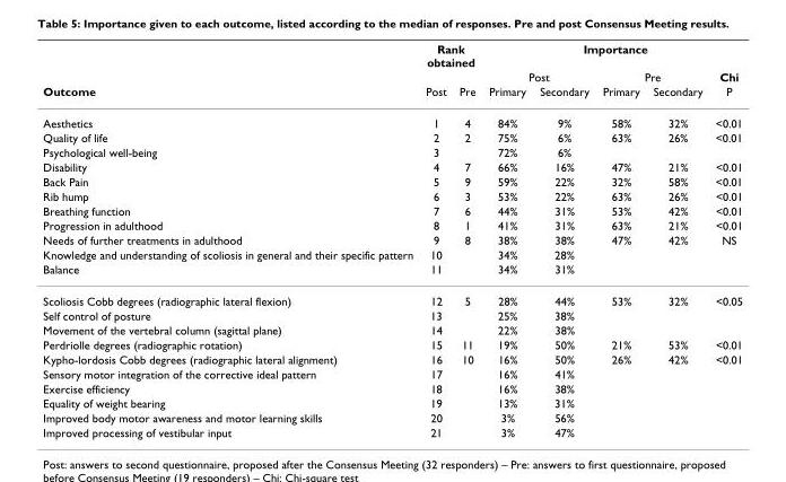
<table><thead><tr><td rowspan="3">Outcome</td><td colspan="2">Rank obtained</td><td colspan="5">Importance</td></tr><tr><td rowspan="2">Post</td><td rowspan="2">Pre</td><td colspan="2">Post</td><td colspan="2">Pre</td><td rowspan="2">Chi P</td></tr><tr><td>Primary</td><td>Secondary</td><td>Primary</td><td>Secondary</td></tr></thead><tbody><tr><td>Aesthetics</td><td>1</td><td>4</td><td>84%</td><td>9%</td><td>58%</td><td>32%</td><td>&lt;0.01</td></tr><tr><td>Quality of life</td><td>2</td><td>2</td><td>75%</td><td>6%</td><td>63%</td><td>26%</td><td>&lt;0.01</td></tr><tr><td>Psychological well-being</td><td>3</td><td></td><td>72%</td><td>6%</td><td></td><td></td><td></td></tr><tr><td>Disability</td><td>4</td><td>7</td><td>66%</td><td>16%</td><td>47%</td><td>21%</td><td>&lt;0.01</td></tr><tr><td>Back Pain</td><td>5</td><td>9</td><td>59%</td><td>22%</td><td>32%</td><td>58%</td><td>&lt;0.01</td></tr><tr><td>Rib hump</td><td>6</td><td>3</td><td>53%</td><td>22%</td><td>63%</td><td>26%</td><td>&lt;0.01</td></tr><tr><td>Breathing function</td><td>7</td><td>6</td><td>44%</td><td>31%</td><td>53%</td><td>42%</td><td>&lt;0.01</td></tr><tr><td>Progression in adulthood</td><td>8</td><td>1</td><td>41%</td><td>31%</td><td>63%</td><td>21%</td><td>&lt;0.01</td></tr><tr><td>Needs of further treatments in adulthood</td><td>9</td><td>8</td><td>38%</td><td>38%</td><td>47%</td><td>42%</td><td>NS</td></tr><tr><td>Knowledge and understanding of scoliosis in general and their specific pattern</td><td>10</td><td></td><td>34%</td><td>28%</td><td></td><td></td><td></td></tr><tr><td>Balance</td><td>11</td><td></td><td>34%</td><td>31%</td><td></td><td></td><td></td></tr><tr><td>Scoliosis Cobb degrees (radiographic lateral flexion)</td><td>12</td><td>5</td><td>28%</td><td>44%</td><td>53%</td><td>32%</td><td>&lt;0.05</td></tr><tr><td>Self control of posture</td><td>13</td><td></td><td>25%</td><td>38%</td><td></td><td></td><td></td></tr><tr><td>Movement of the vertebral column (sagittal plane)</td><td>14</td><td></td><td>22%</td><td>38%</td><td></td><td></td><td></td></tr><tr><td>Perdriolle degrees (radiographic rotation)</td><td>15</td><td>11</td><td>19%</td><td>50%</td><td>21%</td><td>53%</td><td>&lt;0.01</td></tr><tr><td>Kypho-lordosis Cobb degrees (radiographic lateral alignment)</td><td>16</td><td>10</td><td>16%</td><td>50%</td><td>26%</td><td>42%</td><td>&lt;0.01</td></tr><tr><td>Sensory motor integration of the corrective ideal pattern</td><td>17</td><td></td><td>16%</td><td>41%</td><td></td><td></td><td></td></tr><tr><td>Exercise efficiency</td><td>18</td><td></td><td>16%</td><td>38%</td><td></td><td></td><td></td></tr><tr><td>Equality of weight bearing</td><td>19</td><td></td><td>13%</td><td>31%</td><td></td><td></td><td></td></tr><tr><td>Improved body motor awareness and motor learning skills</td><td>20</td><td></td><td>3%</td><td>56%</td><td></td><td></td><td></td></tr><tr><td>Improved processing of vestibular input</td><td>21</td><td></td><td>3%</td><td>47%</td><td></td><td></td><td></td></tr></tbody></table>